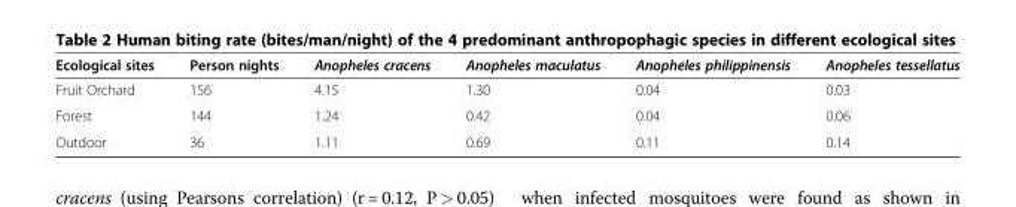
<table><thead><tr><td>Ecological sites</td><td>Person nights</td><td>Anopheles cracens</td><td>Anopheles maculatus</td><td>Anopheles philippinensis</td><td>Anopheles tessellatus</td></tr></thead><tbody><tr><td>Fruit Orchard</td><td>156</td><td>4.15</td><td>1.30</td><td>0.04</td><td>0.03</td></tr><tr><td>Forest</td><td>144</td><td>1.24</td><td>0.42</td><td>0.04</td><td>0.06</td></tr><tr><td>Outdoor</td><td>36</td><td>1.11</td><td>0.69</td><td>0.11</td><td>0.14</td></tr></tbody></table>